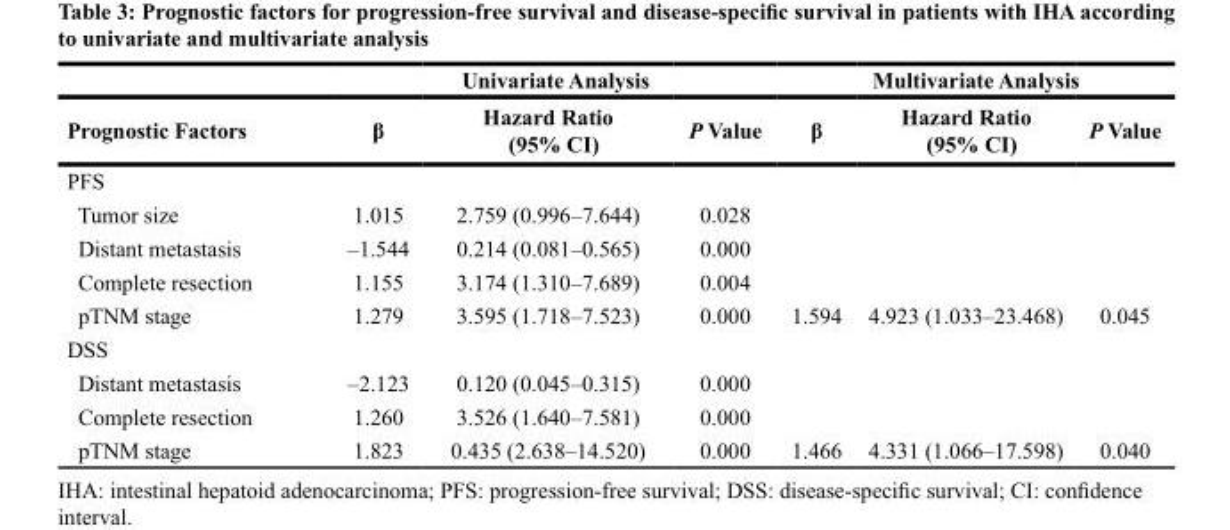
<table><thead><tr><td rowspan="2">Prognostic Factors</td><td colspan="3">Univariate Analysis</td><td colspan="3">Multivariate Analysis</td></tr><tr><td>β</td><td>Hazard Ratio (95% CI)</td><td>P Value</td><td>β</td><td>Hazard Ratio (95% CI)</td><td>P Value</td></tr></thead><tbody><tr><td colspan="7">PFS</td></tr><tr><td>Tumor size</td><td>1.015</td><td>2.759 (0.996–7.644)</td><td>0.028</td><td></td><td></td><td></td></tr><tr><td>Distant metastasis</td><td>–1.544</td><td>0.214 (0.081–0.565)</td><td>0.000</td><td></td><td></td><td></td></tr><tr><td>Complete resection</td><td>1.155</td><td>3.174 (1.310–7.689)</td><td>0.004</td><td></td><td></td><td></td></tr><tr><td>pTNM stage</td><td>1.279</td><td>3.595 (1.718–7.523)</td><td>0.000</td><td>1.594</td><td>4.923 (1.033–23.468)</td><td>0.045</td></tr><tr><td colspan="7">DSS</td></tr><tr><td>Distant metastasis</td><td>–2.123</td><td>0.120 (0.045–0.315)</td><td>0.000</td><td></td><td></td><td></td></tr><tr><td>Complete resection</td><td>1.260</td><td>3.526 (1.640–7.581)</td><td>0.000</td><td></td><td></td><td></td></tr><tr><td>pTNM stage</td><td>1.823</td><td>0.435 (2.638–14.520)</td><td>0.000</td><td>1.466</td><td>4.331 (1.066–17.598)</td><td>0.040</td></tr></tbody></table>